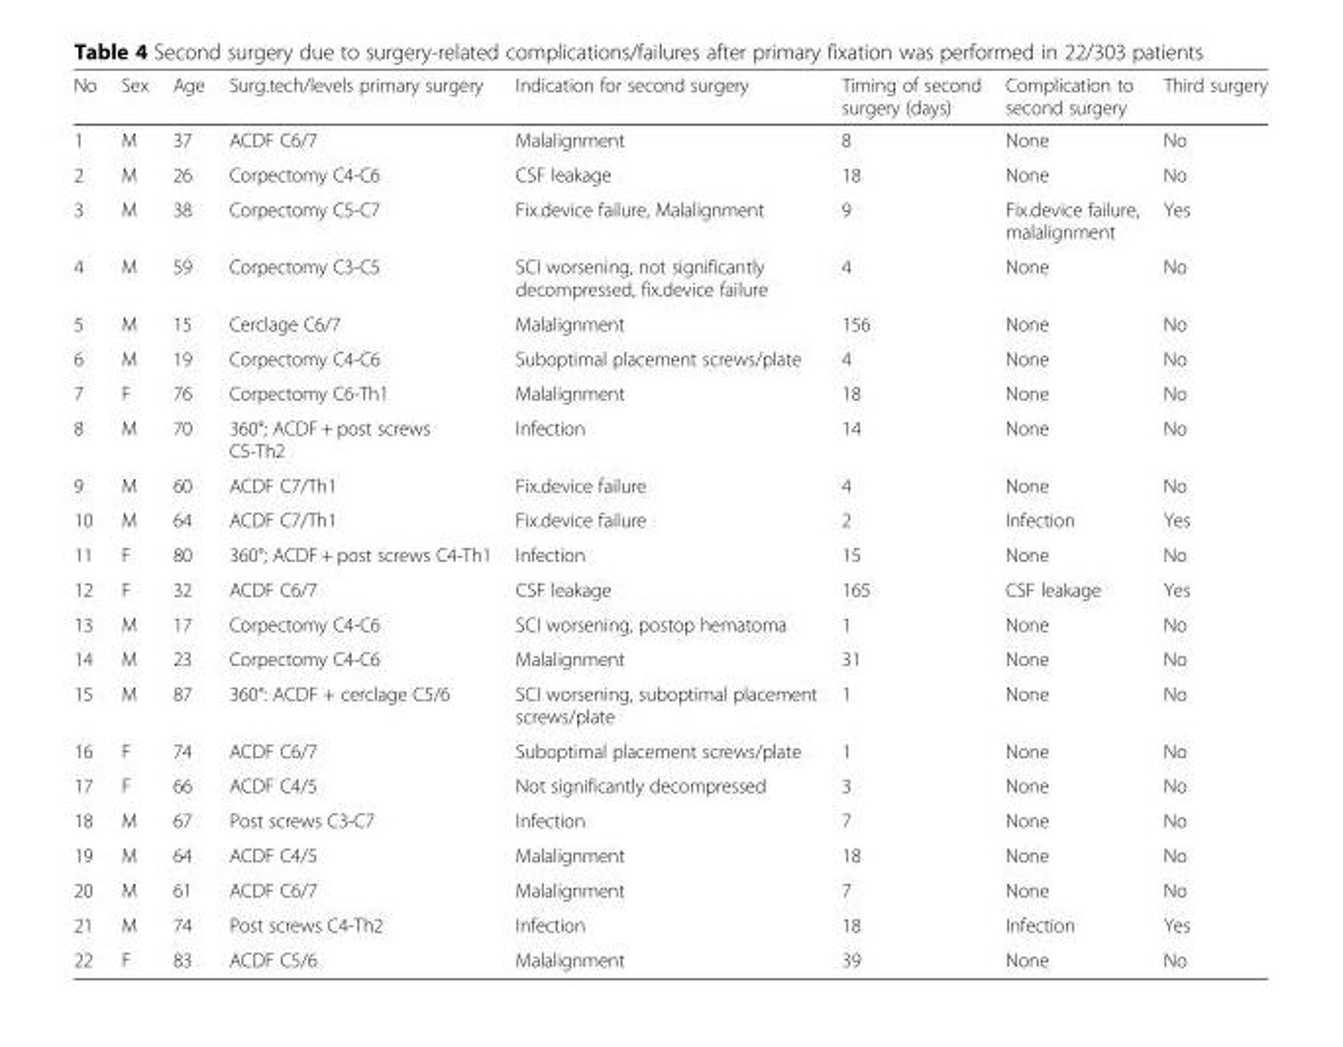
<table><thead><tr><td>No</td><td>Sex</td><td>Age</td><td>Surg.tech/levels primary surgery</td><td>Indication for second surgery</td><td>Timing of second surgery (days)</td><td>Complication to second surgery</td><td>Third surgery</td></tr></thead><tbody><tr><td>1</td><td>M</td><td>37</td><td>ACDF C6/7</td><td>Malalignment</td><td>8</td><td>None</td><td>No</td></tr><tr><td>2</td><td>M</td><td>26</td><td>Corpectomy C4-C6</td><td>CSF leakage</td><td>18</td><td>None</td><td>No</td></tr><tr><td>3</td><td>M</td><td>38</td><td>Corpectomy C5-C7</td><td>Fix.device failure, Malalignment</td><td>9</td><td>Fix.device failure, malalignment</td><td>Yes</td></tr><tr><td>4</td><td>M</td><td>59</td><td>Corpectomy C3-C5</td><td>SCI worsening, not significantly decompressed, fix.device failure</td><td>4</td><td>None</td><td>No</td></tr><tr><td>5</td><td>M</td><td>15</td><td>Cerclage C6/7</td><td>Malalignment</td><td>156</td><td>None</td><td>No</td></tr><tr><td>6</td><td>M</td><td>19</td><td>Corpectomy C4-C6</td><td>Suboptimal placement screws/plate</td><td>4</td><td>None</td><td>No</td></tr><tr><td>7</td><td>F</td><td>76</td><td>Corpectomy C6-Th1</td><td>Malalignment</td><td>18</td><td>None</td><td>No</td></tr><tr><td>8</td><td>M</td><td>70</td><td>360°; ACDF + post screws C5-Th2</td><td>Infection</td><td>14</td><td>None</td><td>No</td></tr><tr><td>9</td><td>M</td><td>60</td><td>ACDF C7/Th1</td><td>Fix.device failure</td><td>4</td><td>None</td><td>No</td></tr><tr><td>10</td><td>M</td><td>64</td><td>ACDF C7/Th1</td><td>Fix.device failure</td><td>2</td><td>Infection</td><td>Yes</td></tr><tr><td>11</td><td>F</td><td>80</td><td>360°; ACDF + post screws C4-Th1</td><td>Infection</td><td>15</td><td>None</td><td>No</td></tr><tr><td>12</td><td>F</td><td>32</td><td>ACDF C6/7</td><td>CSF leakage</td><td>165</td><td>CSF leakage</td><td>Yes</td></tr><tr><td>13</td><td>M</td><td>17</td><td>Corpectomy C4-C6</td><td>SCI worsening, postop hematoma</td><td>1</td><td>None</td><td>No</td></tr><tr><td>14</td><td>M</td><td>23</td><td>Corpectomy C4-C6</td><td>Malalignment</td><td>31</td><td>None</td><td>No</td></tr><tr><td>15</td><td>M</td><td>87</td><td>360°: ACDF + cerclage C5/6</td><td>SCI worsening, suboptimal placement screws/plate</td><td>1</td><td>None</td><td>No</td></tr><tr><td>16</td><td>F</td><td>74</td><td>ACDF C6/7</td><td>Suboptimal placement screws/plate</td><td>1</td><td>None</td><td>No</td></tr><tr><td>17</td><td>F</td><td>66</td><td>ACDF C4/5</td><td>Not significantly decompressed</td><td>3</td><td>None</td><td>No</td></tr><tr><td>18</td><td>M</td><td>67</td><td>Post screws C3-C7</td><td>Infection</td><td>7</td><td>None</td><td>No</td></tr><tr><td>19</td><td>M</td><td>64</td><td>ACDF C4/5</td><td>Malalignment</td><td>18</td><td>None</td><td>No</td></tr><tr><td>20</td><td>M</td><td>61</td><td>ACDF C6/7</td><td>Malalignment</td><td>7</td><td>None</td><td>No</td></tr><tr><td>21</td><td>M</td><td>74</td><td>Post screws C4-Th2</td><td>Infection</td><td>18</td><td>Infection</td><td>Yes</td></tr><tr><td>22</td><td>F</td><td>83</td><td>ACDF C5/6</td><td>Malalignment</td><td>39</td><td>None</td><td>No</td></tr></tbody></table>